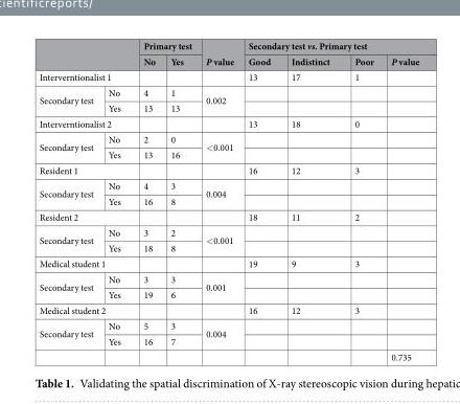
<table><thead><tr><td rowspan="2"></td><td rowspan="2"></td><td colspan="2">Primary test</td><td rowspan="2">P value</td><td colspan="4">Secondary test vs. Primary test</td></tr><tr><td>No</td><td>Yes</td><td>Good</td><td>Indistinct</td><td>Poor</td><td>P value</td></tr></thead><tbody><tr><td colspan="2">Interverntionalist 1</td><td></td><td></td><td></td><td>13</td><td>17</td><td>1</td><td></td></tr><tr><td rowspan="2">Secondary test</td><td>No</td><td>4</td><td>1</td><td rowspan="2">0.002</td><td></td><td></td><td></td><td></td></tr><tr><td>Yes</td><td>13</td><td>13</td><td></td><td></td><td></td><td></td></tr><tr><td colspan="2">Interverntionalist 2</td><td></td><td></td><td></td><td>13</td><td>18</td><td>0</td><td></td></tr><tr><td rowspan="2">Secondary test</td><td>No</td><td>2</td><td>0</td><td rowspan="2">&lt;0.001</td><td></td><td></td><td></td><td></td></tr><tr><td>Yes</td><td>13</td><td>16</td><td></td><td></td><td></td><td></td></tr><tr><td colspan="2">Resident 1</td><td></td><td></td><td></td><td>16</td><td>12</td><td>3</td><td></td></tr><tr><td rowspan="2">Secondary test</td><td>No</td><td>4</td><td>3</td><td rowspan="2">0.004</td><td></td><td></td><td></td><td></td></tr><tr><td>Yes</td><td>16</td><td>8</td><td></td><td></td><td></td><td></td></tr><tr><td colspan="2">Resident 2</td><td></td><td></td><td></td><td>18</td><td>11</td><td>2</td><td></td></tr><tr><td rowspan="2">Secondary test</td><td>No</td><td>3</td><td>2</td><td rowspan="2">&lt;0.001</td><td></td><td></td><td></td><td></td></tr><tr><td>Yes</td><td>18</td><td>8</td><td></td><td></td><td></td><td></td></tr><tr><td colspan="2">Medical student 1</td><td></td><td></td><td></td><td>19</td><td>9</td><td>3</td><td></td></tr><tr><td rowspan="2">Secondary test</td><td>No</td><td>3</td><td>3</td><td rowspan="2">0.001</td><td></td><td></td><td></td><td></td></tr><tr><td>Yes</td><td>19</td><td>6</td><td></td><td></td><td></td><td></td></tr><tr><td colspan="2">Medical student 2</td><td></td><td></td><td></td><td>16</td><td>12</td><td>3</td><td></td></tr><tr><td rowspan="3">Secondary test</td><td>No</td><td>5</td><td>3</td><td rowspan="2">0.004</td><td></td><td></td><td></td><td></td></tr><tr><td>Yes</td><td>16</td><td>7</td><td></td><td></td><td></td><td></td></tr><tr><td></td><td></td><td></td><td></td><td></td><td></td><td></td><td>0.735</td></tr></tbody></table>